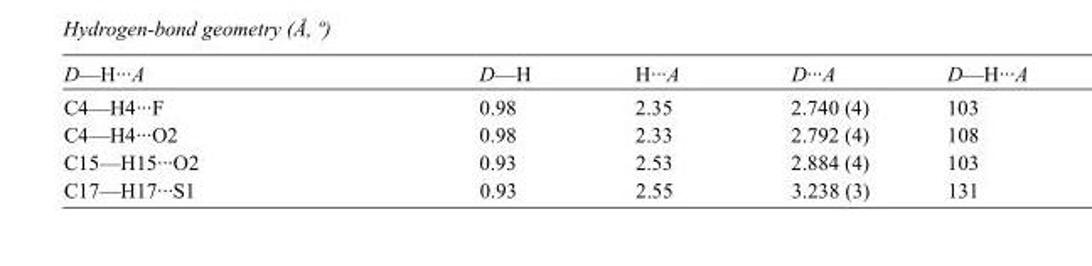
<table><tbody><tr><td>D—H···A</td><td>D—H</td><td>H···A</td><td>D···A</td><td>D—H···A</td></tr><tr><td>C4—H4···F</td><td>0.98</td><td>2.35</td><td>2.740 (4)</td><td>103</td></tr><tr><td>C4—H4···O2</td><td>0.98</td><td>2.33</td><td>2.792 (4)</td><td>108</td></tr><tr><td>C15—H15···O2</td><td>0.93</td><td>2.53</td><td>2.884 (4)</td><td>103</td></tr><tr><td>C17—H17···S1</td><td>0.93</td><td>2.55</td><td>3.238 (3)</td><td>131</td></tr></tbody></table>